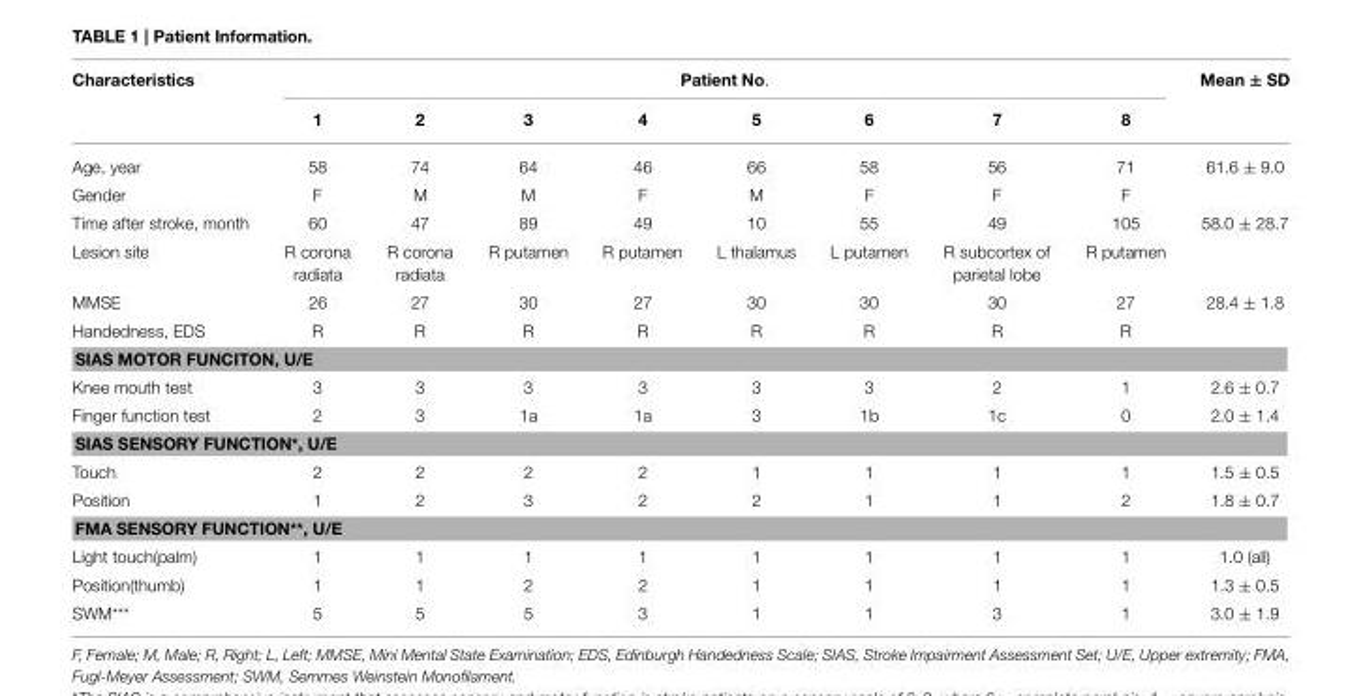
<table><thead><tr><td rowspan="2">Characteristics</td><td colspan="8">Patient No.</td><td rowspan="2">Mean ± SD</td></tr><tr><td>1</td><td>2</td><td>3</td><td>4</td><td>5</td><td>6</td><td>7</td><td>8</td></tr></thead><tbody><tr><td>Age, year</td><td>58</td><td>74</td><td>64</td><td>46</td><td>66</td><td>58</td><td>56</td><td>71</td><td>61.6 ± 9.0</td></tr><tr><td>Gender</td><td>F</td><td>M</td><td>M</td><td>F</td><td>M</td><td>F</td><td>F</td><td>F</td><td></td></tr><tr><td>Time after stroke, month</td><td>60</td><td>47</td><td>89</td><td>49</td><td>10</td><td>55</td><td>49</td><td>105</td><td>58.0 ± 28.7</td></tr><tr><td>Lesion site</td><td>R corona radiata</td><td>R corona radiata</td><td>R putamen</td><td>R putamen</td><td>L thalamus</td><td>L putamen</td><td>R subcortex of parietal lobe</td><td>R putamen</td><td></td></tr><tr><td>MMSE</td><td>26</td><td>27</td><td>30</td><td>27</td><td>30</td><td>30</td><td>30</td><td>27</td><td>28.4 ± 1.8</td></tr><tr><td>Handedness, EDS</td><td>R</td><td>R</td><td>R</td><td>R</td><td>R</td><td>R</td><td>R</td><td>R</td><td></td></tr><tr><td colspan="10">SIAS MOTOR FUNCITON, U/E</td></tr><tr><td>Knee mouth test</td><td>3</td><td>3</td><td>3</td><td>3</td><td>3</td><td>3</td><td>2</td><td>1</td><td>2.6 ± 0.7</td></tr><tr><td>Finger function test</td><td>2</td><td>3</td><td>1a</td><td>1a</td><td>3</td><td>1b</td><td>1c</td><td>0</td><td>2.0 ± 1.4</td></tr><tr><td colspan="10">SIAS SENSORY FUNCTION*, U/E</td></tr><tr><td>Touch</td><td>2</td><td>2</td><td>2</td><td>2</td><td>1</td><td>1</td><td>1</td><td>1</td><td>1.5 ± 0.5</td></tr><tr><td>Position</td><td>1</td><td>2</td><td>3</td><td>2</td><td>2</td><td>1</td><td>1</td><td>2</td><td>1.8 ± 0.7</td></tr><tr><td colspan="10">FMA SENSORY FUNCTION**, U/E</td></tr><tr><td>Light touch(palm)</td><td>1</td><td>1</td><td>1</td><td>1</td><td>1</td><td>1</td><td>1</td><td>1</td><td>1.0 (all)</td></tr><tr><td>Position(thumb)</td><td>1</td><td>1</td><td>2</td><td>2</td><td>1</td><td>1</td><td>1</td><td>1</td><td>1.3 ± 0.5</td></tr><tr><td>SWM***</td><td>5</td><td>5</td><td>5</td><td>3</td><td>1</td><td>1</td><td>3</td><td>1</td><td>3.0 ± 1.9</td></tr></tbody></table>